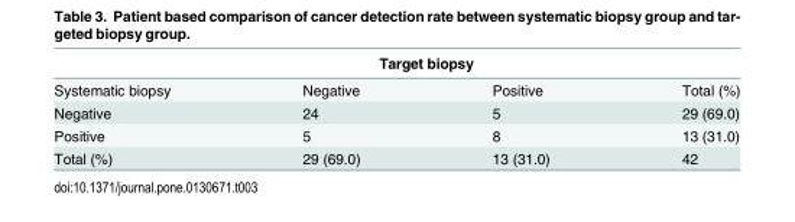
<table><thead><tr><td rowspan="2">Systematic biopsy</td><td colspan="2">Target biopsy</td><td rowspan="2">Total (%)</td></tr><tr><td>Negative</td><td>Positive</td></tr></thead><tbody><tr><td>Negative</td><td>24</td><td>5</td><td>29 (69.0)</td></tr><tr><td>Positive</td><td>5</td><td>8</td><td>13 (31.0)</td></tr><tr><td>Total (%)</td><td>29 (69.0)</td><td>13 (31.0)</td><td>42</td></tr></tbody></table>